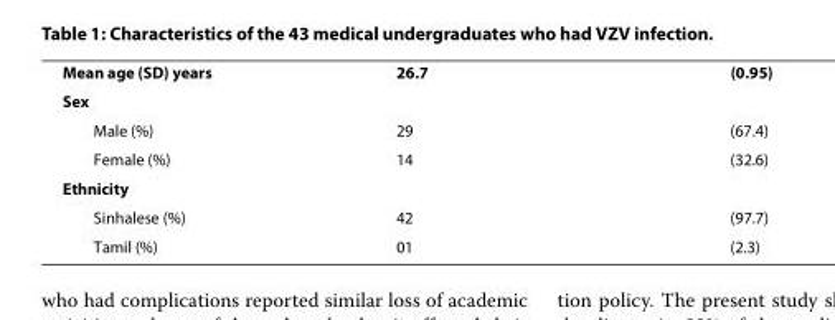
<table><tbody><tr><td>Mean age (SD) years</td><td>26.7</td><td>(0.95)</td></tr><tr><td colspan="3">Sex</td></tr><tr><td>Male (%)</td><td>29</td><td>(67.4)</td></tr><tr><td>Female (%)</td><td>14</td><td>(32.6)</td></tr><tr><td colspan="3">Ethnicity</td></tr><tr><td>Sinhalese (%)</td><td>42</td><td>(97.7)</td></tr><tr><td>Tamil (%)</td><td>01</td><td>(2.3)</td></tr></tbody></table>